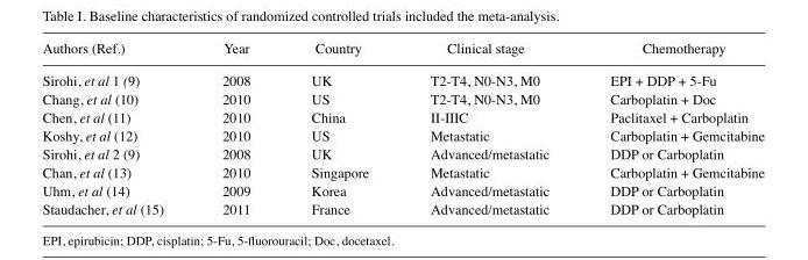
<table><thead><tr><td>Authors (Ref.)</td><td>Year</td><td>Country</td><td>Clinical stage</td><td>Chemotherapy</td></tr></thead><tbody><tr><td>Sirohi, et al 1 (9)</td><td>2008</td><td>UK</td><td>T2‑T4, N0‑N3, M0</td><td>EPI + DDP + 5‑Fu</td></tr><tr><td>Chang, et al (10)</td><td>2010</td><td>US</td><td>T2‑T4, N0‑N3, M0</td><td>Carboplatin + Doc</td></tr><tr><td>Chen, et al (11)</td><td>2010</td><td>China</td><td>II‑IIIC</td><td>Paclitaxel + Carboplatin</td></tr><tr><td>Koshy, et al (12)</td><td>2010</td><td>US</td><td>Metastatic</td><td>Carboplatin + Gemcitabine</td></tr><tr><td>Sirohi, et al 2 (9)</td><td>2008</td><td>UK</td><td>Advanced/metastatic</td><td>DDP or Carboplatin</td></tr><tr><td>Chan, et al (13)</td><td>2010</td><td>Singapore</td><td>Metastatic</td><td>Carboplatin + Gemcitabine</td></tr><tr><td>Uhm, et al (14)</td><td>2009</td><td>Korea</td><td>Advanced/metastatic</td><td>DDP or Carboplatin</td></tr><tr><td>Staudacher, et al (15)</td><td>2011</td><td>France</td><td>Advanced/metastatic</td><td>DDP or Carboplatin</td></tr></tbody></table>